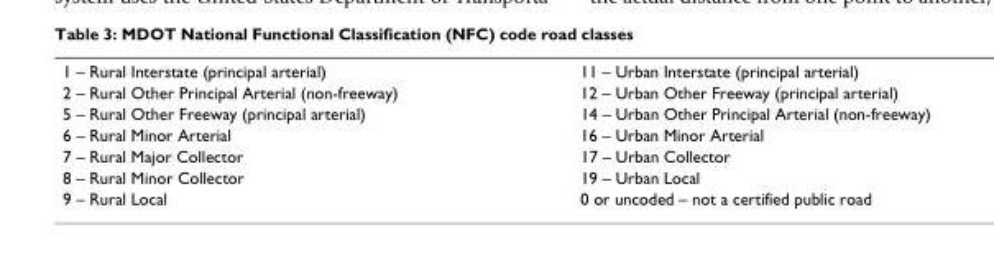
<table><tbody><tr><td>1 – Rural Interstate (principal arterial)</td><td>11 – Urban Interstate (principal arterial)</td></tr><tr><td>2 – Rural Other Principal Arterial (non-freeway)</td><td>12 – Urban Other Freeway (principal arterial)</td></tr><tr><td>5 – Rural Other Freeway (principal arterial)</td><td>14 – Urban Other Principal Arterial (non-freeway)</td></tr><tr><td>6 – Rural Minor Arterial</td><td>16 – Urban Minor Arterial</td></tr><tr><td>7 – Rural Major Collector</td><td>17 – Urban Collector</td></tr><tr><td>8 – Rural Minor Collector</td><td>19 – Urban Local</td></tr><tr><td>9 – Rural Local</td><td>0 or uncoded – not a certified public road</td></tr></tbody></table>